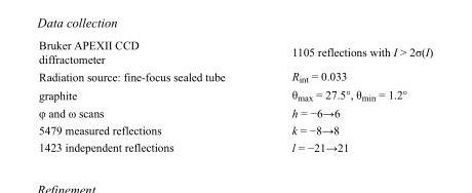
<table><tbody><tr><td>Bruker APEXII CCD diffractometer</td><td>1105 reflections with I &gt; 2σ(I)</td></tr><tr><td>Radiation source: fine-focus sealed tube</td><td>R<sub>int</sub> = 0.033</td></tr><tr><td>graphite</td><td>θ<sub>max</sub> = 27.5°, θ<sub>min</sub> = 1.2°</td></tr><tr><td>φ and ω scans</td><td>h = −6→6</td></tr><tr><td>5479 measured reflections</td><td>k = −8→8</td></tr><tr><td>1423 independent reflections</td><td>l = −21→21</td></tr></tbody></table>